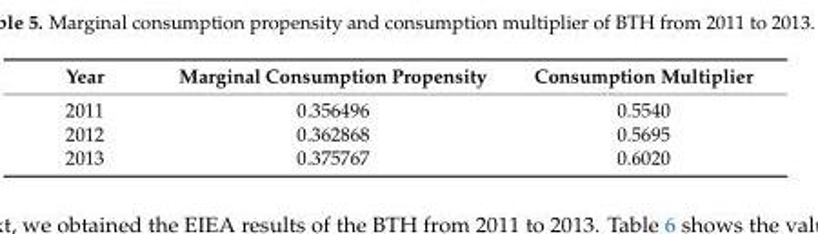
<table><thead><tr><td>Year</td><td>Marginal Consumption Propensity</td><td>Consumption Multiplier</td></tr></thead><tbody><tr><td>2011</td><td>0.356496</td><td>0.5540</td></tr><tr><td>2012</td><td>0.362868</td><td>0.5695</td></tr><tr><td>2013</td><td>0.375767</td><td>0.6020</td></tr></tbody></table>